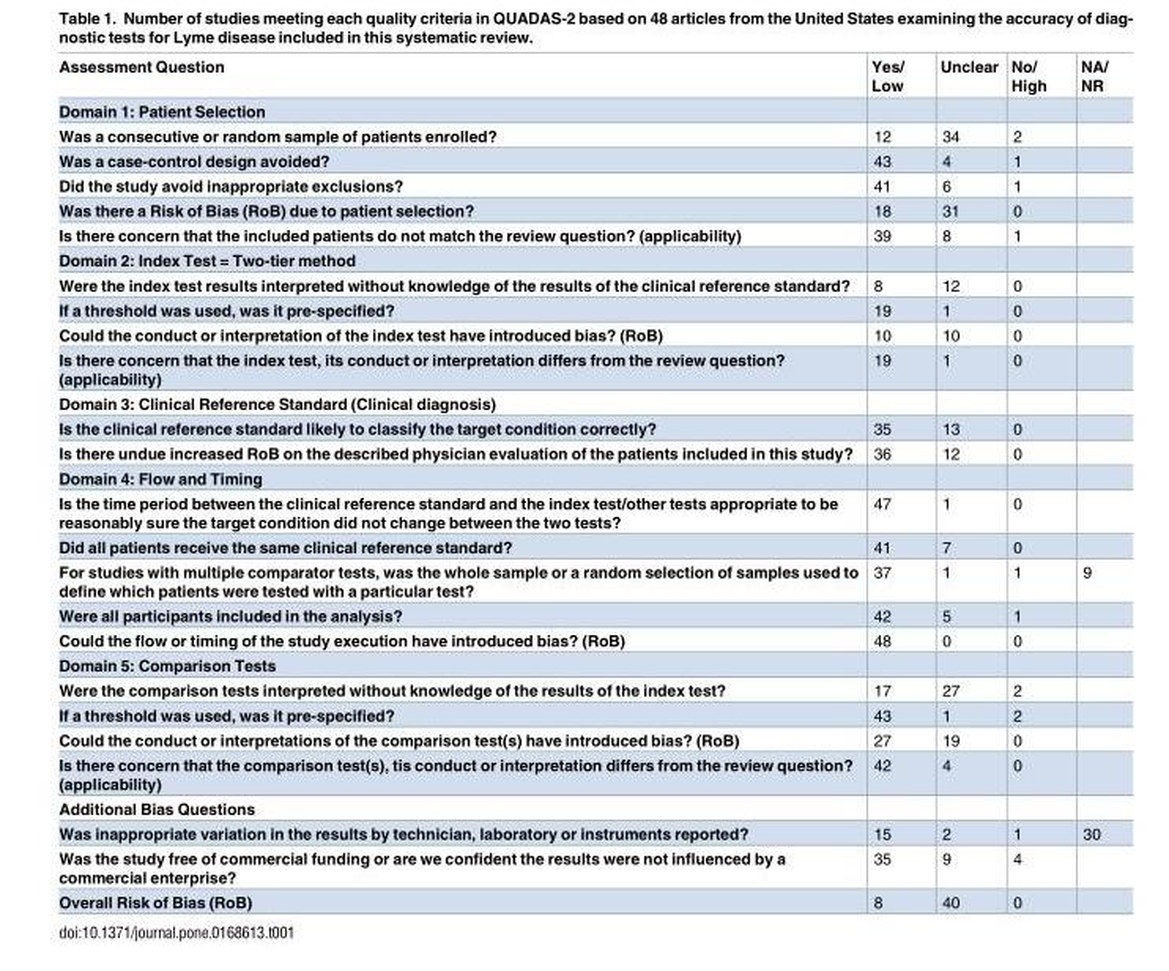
<table><thead><tr><td>Assessment Question</td><td>Yes/ Low</td><td>Unclear</td><td>No/ High</td><td>NA/ NR</td></tr></thead><tbody><tr><td colspan="5">Domain 1: Patient Selection</td></tr><tr><td>Was a consecutive or random sample of patients enrolled?</td><td>12</td><td>34</td><td>2</td><td></td></tr><tr><td>Was a case-control design avoided?</td><td>43</td><td>4</td><td>1</td><td></td></tr><tr><td>Did the study avoid inappropriate exclusions?</td><td>41</td><td>6</td><td>1</td><td></td></tr><tr><td>Was there a Risk of Bias (RoB) due to patient selection?</td><td>18</td><td>31</td><td>0</td><td></td></tr><tr><td>Is there concern that the included patients do not match the review question? (applicability)</td><td>39</td><td>8</td><td>1</td><td></td></tr><tr><td colspan="5">Domain 2: Index Test = Two-tier method</td></tr><tr><td>Were the index test results interpreted without knowledge of the results of the clinical reference standard?</td><td>8</td><td>12</td><td>0</td><td></td></tr><tr><td>If a threshold was used, was it pre-specified?</td><td>19</td><td>1</td><td>0</td><td></td></tr><tr><td>Could the conduct or interpretation of the index test have introduced bias? (RoB)</td><td>10</td><td>10</td><td>0</td><td></td></tr><tr><td>Is there concern that the index test, its conduct or interpretation differs from the review question? (applicability)</td><td>19</td><td>1</td><td>0</td><td></td></tr><tr><td colspan="5">Domain 3: Clinical Reference Standard (Clinical diagnosis)</td></tr><tr><td>Is the clinical reference standard likely to classify the target condition correctly?</td><td>35</td><td>13</td><td>0</td><td></td></tr><tr><td>Is there undue increased RoB on the described physician evaluation of the patients included in this study?</td><td>36</td><td>12</td><td>0</td><td></td></tr><tr><td colspan="5">Domain 4: Flow and Timing</td></tr><tr><td>Is the time period between the clinical reference standard and the index test/other tests appropriate to be reasonably sure the target condition did not change between the two tests?</td><td>47</td><td>1</td><td>0</td><td></td></tr><tr><td>Did all patients receive the same clinical reference standard?</td><td>41</td><td>7</td><td>0</td><td></td></tr><tr><td>For studies with multiple comparator tests, was the whole sample or a random selection of samples used to define which patients were tested with a particular test?</td><td>37</td><td>1</td><td>1</td><td>9</td></tr><tr><td>Were all participants included in the analysis?</td><td>42</td><td>5</td><td>1</td><td></td></tr><tr><td>Could the flow or timing of the study execution have introduced bias? (RoB)</td><td>48</td><td>0</td><td>0</td><td></td></tr><tr><td colspan="5">Domain 5: Comparison Tests</td></tr><tr><td>Were the comparison tests interpreted without knowledge of the results of the index test?</td><td>17</td><td>27</td><td>2</td><td></td></tr><tr><td>If a threshold was used, was it pre-specified?</td><td>43</td><td>1</td><td>2</td><td></td></tr><tr><td>Could the conduct or interpretations of the comparison test(s) have introduced bias? (RoB)</td><td>27</td><td>19</td><td>0</td><td></td></tr><tr><td>Is there concern that the comparison test(s), tis conduct or interpretation differs from the review question? (applicability)</td><td>42</td><td>4</td><td>0</td><td></td></tr><tr><td colspan="5">Additional Bias Questions</td></tr><tr><td>Was inappropriate variation in the results by technician, laboratory or instruments reported?</td><td>15</td><td>2</td><td>1</td><td>30</td></tr><tr><td>Was the study free of commercial funding or are we confident the results were not influenced by a commercial enterprise?</td><td>35</td><td>9</td><td>4</td><td></td></tr><tr><td>Overall Risk of Bias (RoB)</td><td>8</td><td>40</td><td>0</td><td></td></tr></tbody></table>